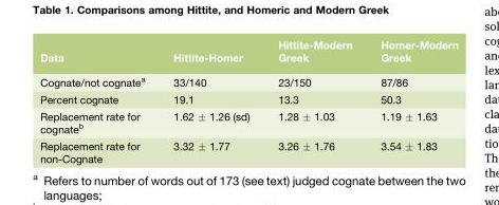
<table><thead><tr><td>Data</td><td>Hittite-Homer</td><td>Hittite-Modern Greek</td><td>Homer-Modern Greek</td></tr></thead><tbody><tr><td>Cognate/not cognate<sup>a</sup></td><td>33/140</td><td>23/150</td><td>87/86</td></tr><tr><td>Percent cognate</td><td>19.1</td><td>13.3</td><td>50.3</td></tr><tr><td>Replacement rate for cognate<sup>b</sup></td><td>1.62 ± 1.26 (sd)</td><td>1.28 ± 1.03</td><td>1.19 ± 1.63</td></tr><tr><td>Replacement rate for non-Cognate</td><td>3.32 ± 1.77</td><td>3.26 ± 1.76</td><td>3.54 ± 1.83</td></tr></tbody></table>